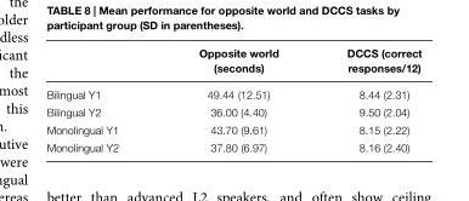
<table><thead><tr><td></td><td>Opposite world (seconds)</td><td>DCCS (correct responses/12)</td></tr></thead><tbody><tr><td>Bilingual Y1</td><td>49.44 (12.51)</td><td>8.44 (2.31)</td></tr><tr><td>Bilingual Y2</td><td>36.00 (4.40)</td><td>9.50 (2.04)</td></tr><tr><td>Monolingual Y1</td><td>43.70 (9.61)</td><td>8.15 (2.22)</td></tr><tr><td>Monolingual Y2</td><td>37.80 (6.97)</td><td>8.16 (2.40)</td></tr></tbody></table>